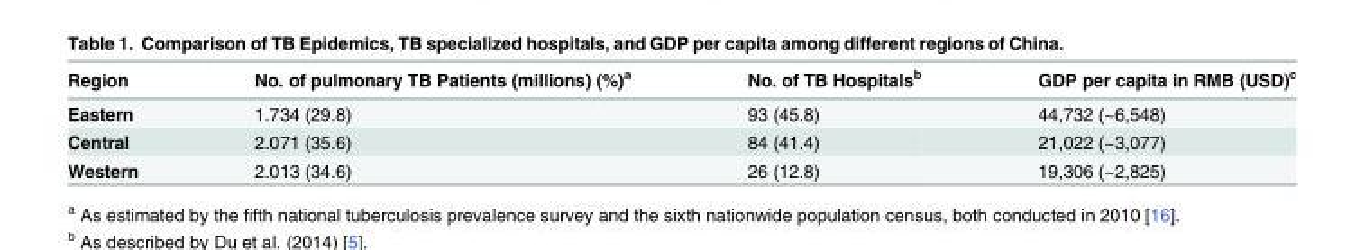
<table><thead><tr><td>Region</td><td>No. of pulmonary TB Patients (millions) (%)<sup>a</sup></td><td>No. of TB Hospitals<sup>b</sup></td><td>GDP per capita in RMB (USD)<sup>c</sup></td></tr></thead><tbody><tr><td>Eastern</td><td>1.734 (29.8)</td><td>93 (45.8)</td><td>44,732 (~6,548)</td></tr><tr><td>Central</td><td>2.071 (35.6)</td><td>84 (41.4)</td><td>21,022 (~3,077)</td></tr><tr><td>Western</td><td>2.013 (34.6)</td><td>26 (12.8)</td><td>19,306 (~2,825)</td></tr></tbody></table>